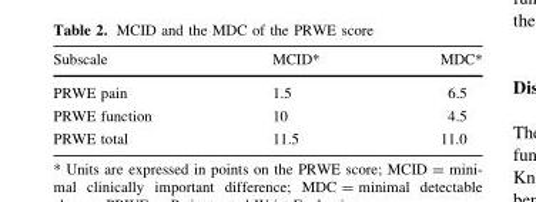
<table><thead><tr><td>Subscale</td><td>MCID*</td><td>MDC*</td></tr></thead><tbody><tr><td>PRWE pain</td><td>1.5</td><td>6.5</td></tr><tr><td>PRWE function</td><td>10</td><td>4.5</td></tr><tr><td>PRWE total</td><td>11.5</td><td>11.0</td></tr></tbody></table>